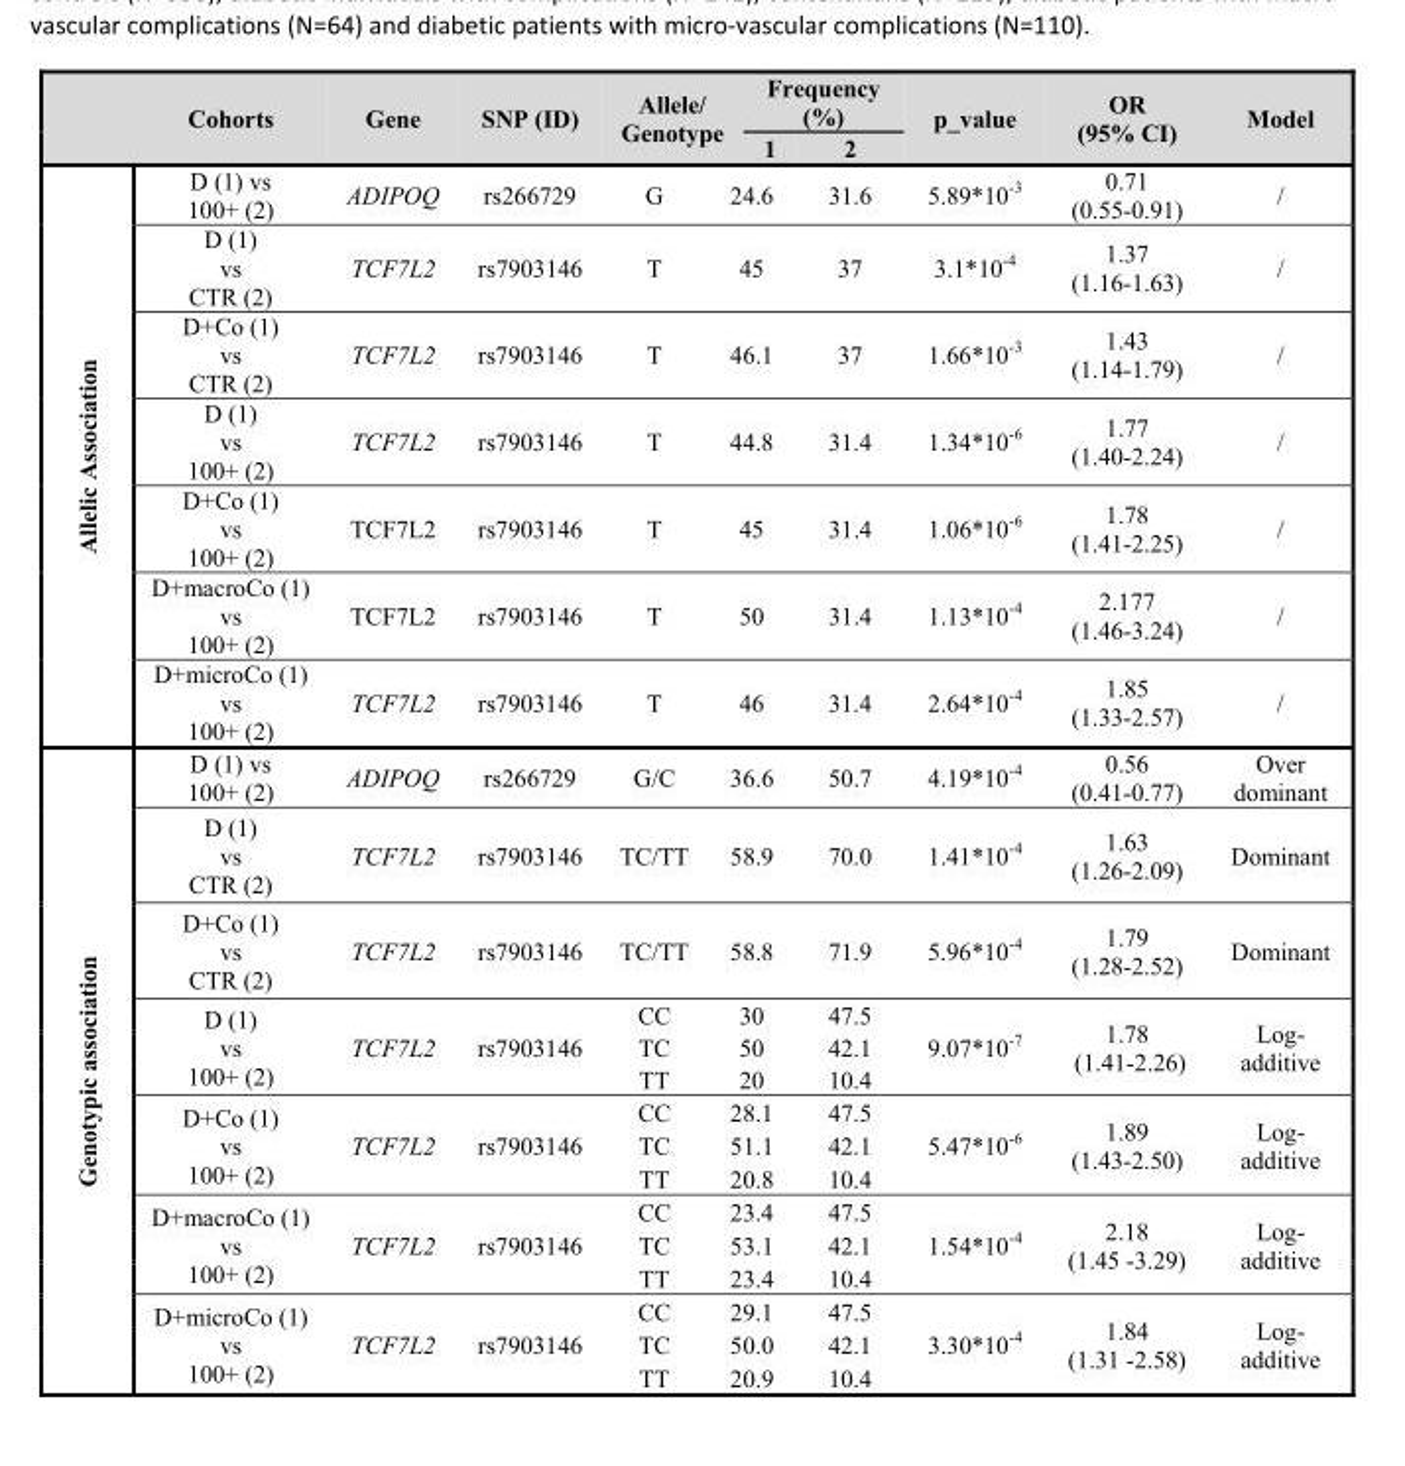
<table><thead><tr><td rowspan="2"></td><td rowspan="2">Cohorts</td><td rowspan="2">Gene</td><td rowspan="2">SNP (ID)</td><td rowspan="2">Allele/ Genotype</td><td colspan="2">Frequency (%)</td><td rowspan="2">p_value</td><td rowspan="2">OR (95% CI)</td><td rowspan="2">Model</td></tr><tr><td>1</td><td>2</td></tr></thead><tbody><tr><td rowspan="7">Allelic Association</td><td>D (1) vs 100+ (2)</td><td>ADIPOQ</td><td>rs266729</td><td>G</td><td>24.6</td><td>31.6</td><td>5.89*10<sup>-3</sup></td><td>0.71 (0.55-0.91)</td><td>/</td></tr><tr><td>D (1) vs CTR (2)</td><td>TCF7L2</td><td>rs7903146</td><td>T</td><td>45</td><td>37</td><td>3.1*10<sup>-4</sup></td><td>1.37 (1.16-1.63)</td><td>/</td></tr><tr><td>D+Co (1) vs CTR (2)</td><td>TCF7L2</td><td>rs7903146</td><td>T</td><td>46.1</td><td>37</td><td>1.66*10<sup>-3</sup></td><td>1.43 (1.14-1.79)</td><td>/</td></tr><tr><td>D (1) vs 100+ (2)</td><td>TCF7L2</td><td>rs7903146</td><td>T</td><td>44.8</td><td>31.4</td><td>1.34*10<sup>-6</sup></td><td>1.77 (1.40-2.24)</td><td>/</td></tr><tr><td>D+Co (1) vs 100+ (2)</td><td>TCF7L2</td><td>rs7903146</td><td>T</td><td>45</td><td>31.4</td><td>1.06*10<sup>-6</sup></td><td>1.78 (1.41-2.25)</td><td>/</td></tr><tr><td>D+macroCo (1) vs 100+ (2)</td><td>TCF7L2</td><td>rs7903146</td><td>T</td><td>50</td><td>31.4</td><td>1.13*10<sup>-4</sup></td><td>2.177 (1.46-3.24)</td><td>/</td></tr><tr><td>D+microCo (1) vs 100+ (2)</td><td>TCF7L2</td><td>rs7903146</td><td>T</td><td>46</td><td>31.4</td><td>2.64*10<sup>-4</sup></td><td>1.85 (1.33-2.57)</td><td>/</td></tr><tr><td rowspan="15">Genotypic association</td><td>D (1) vs 100+ (2)</td><td>ADIPOQ</td><td>rs266729</td><td>G/C</td><td>36.6</td><td>50.7</td><td>4.19*10<sup>-4</sup></td><td>0.56 (0.41-0.77)</td><td>Over dominant</td></tr><tr><td>D (1) vs CTR (2)</td><td>TCF7L2</td><td>rs7903146</td><td>TC/TT</td><td>58.9</td><td>70.0</td><td>1.41*10<sup>-4</sup></td><td>1.63 (1.26-2.09)</td><td>Dominant</td></tr><tr><td>D+Co (1) vs CTR (2)</td><td>TCF7L2</td><td>rs7903146</td><td>TC/TT</td><td>58.8</td><td>71.9</td><td>5.96*10<sup>-4</sup></td><td>1.79 (1.28-2.52)</td><td>Dominant</td></tr><tr><td rowspan="3">D (1) vs 100+ (2)</td><td rowspan="3">TCF7L2</td><td rowspan="3">rs7903146</td><td>CC</td><td>30</td><td>47.5</td><td rowspan="3">9.07*10<sup>-7</sup></td><td rowspan="3">1.78 (1.41-2.26)</td><td rowspan="3">Log- additive</td></tr><tr><td>TC</td><td>50</td><td>42.1</td></tr><tr><td>TT</td><td>20</td><td>10.4</td></tr><tr><td rowspan="3">D+Co (1) vs 100+ (2)</td><td rowspan="3">TCF7L2</td><td rowspan="3">rs7903146</td><td>CC</td><td>28.1</td><td>47.5</td><td rowspan="3">5.47*10<sup>-6</sup></td><td rowspan="3">1.89 (1.43-2.50)</td><td rowspan="3">Log- additive</td></tr><tr><td>TC</td><td>51.1</td><td>42.1</td></tr><tr><td>TT</td><td>20.8</td><td>10.4</td></tr><tr><td rowspan="3">D+macroCo (1) vs 100+ (2)</td><td rowspan="3">TCF7L2</td><td rowspan="3">rs7903146</td><td>CC</td><td>23.4</td><td>47.5</td><td rowspan="3">1.54*10<sup>-4</sup></td><td rowspan="3">2.18 (1.45 -3.29)</td><td rowspan="3">Log- additive</td></tr><tr><td>TC</td><td>53.1</td><td>42.1</td></tr><tr><td>TT</td><td>23.4</td><td>10.4</td></tr><tr><td rowspan="3">D+microCo (1) vs 100+ (2)</td><td rowspan="3">TCF7L2</td><td rowspan="3">rs7903146</td><td>CC</td><td>29.1</td><td>47.5</td><td rowspan="3">3.30*10<sup>-4</sup></td><td rowspan="3">1.84 (1.31 -2.58)</td><td rowspan="3">Log- additive</td></tr><tr><td>TC</td><td>50.0</td><td>42.1</td></tr><tr><td>TT</td><td>20.9</td><td>10.4</td></tr></tbody></table>